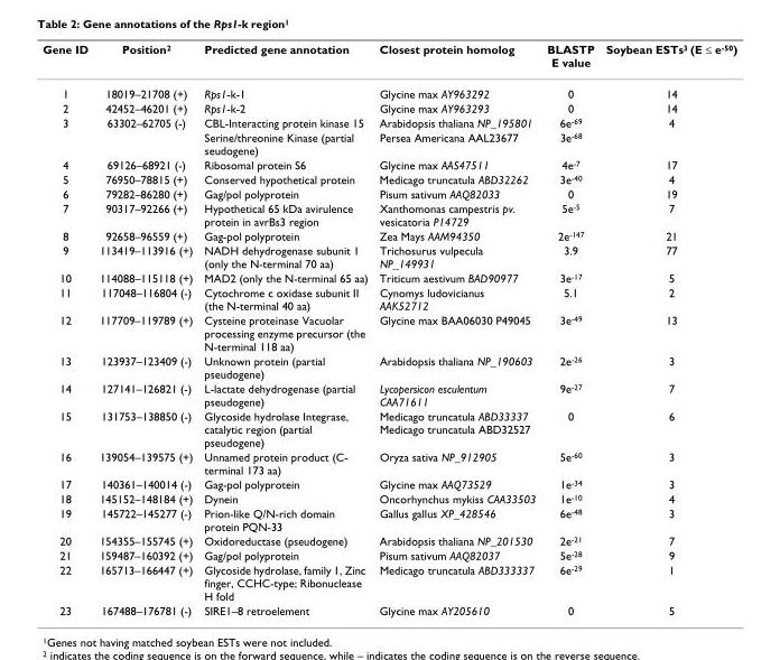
<table><thead><tr><td>Gene ID</td><td>Position<sup>2</sup></td><td>Predicted gene annotation</td><td>Closest protein homolog</td><td>BLASTP E value</td><td>Soybean ESTs<sup>3</sup> (E ≤ e<sup>-50</sup>)</td></tr></thead><tbody><tr><td>1</td><td>18019–21708 (+)</td><td>Rps1-k-1</td><td>Glycine max AY963292</td><td>0</td><td>14</td></tr><tr><td>2</td><td>42452–46201 (+)</td><td>Rps1-k-2</td><td>Glycine max AY963293</td><td>0</td><td>14</td></tr><tr><td rowspan="2">3</td><td>63302–62705 (-)</td><td>CBL-Interacting protein kinase 15</td><td>Arabidopsis thaliana NP_195801</td><td>6e<sup>-69</sup></td><td>4</td></tr><tr><td></td><td>Serine/threonine Kinase (partial seudogene)</td><td>Persea Americana AAL23677</td><td>3e<sup>-68</sup></td><td></td></tr><tr><td>4</td><td>69126–68921 (-)</td><td>Ribosomal protein S6</td><td>Glycine max AAS47511</td><td>4e<sup>-7</sup></td><td>17</td></tr><tr><td>5</td><td>76950–78815 (+)</td><td>Conserved hypothetical protein</td><td>Medicago truncatula ABD32262</td><td>3e<sup>-40</sup></td><td>4</td></tr><tr><td>6</td><td>79282–86280 (+)</td><td>Gag/pol polyprotein</td><td>Pisum sativum AAQ82033</td><td>0</td><td>19</td></tr><tr><td>7</td><td>90317–92266 (+)</td><td>Hypothetical 65 kDa avirulence protein in avrBs3 region</td><td>Xanthomonas campestris pv. vesicatoria P14729</td><td>5e<sup>-5</sup></td><td>7</td></tr><tr><td>8</td><td>92658–96559 (+)</td><td>Gag-pol polyprotein</td><td>Zea Mays AAM94350</td><td>2e<sup>-147</sup></td><td>21</td></tr><tr><td>9</td><td>113419–113916 (+)</td><td>NADH dehydrogenase subunit 1 (only the N-terminal 70 aa)</td><td>Trichosurus vulpecula NP_149931</td><td>3.9</td><td>77</td></tr><tr><td>10</td><td>114088–115118 (+)</td><td>MAD2 (only the N-terminal 65 aa)</td><td>Triticum aestivum BAD90977</td><td>3e<sup>-17</sup></td><td>5</td></tr><tr><td>11</td><td>117048–116804 (-)</td><td>Cytochrome c oxidase subunit II (the N-terminal 40 aa)</td><td>Cynomys ludovicianus AAK52712</td><td>5.1</td><td>2</td></tr><tr><td>12</td><td>117709–119789 (+)</td><td>Cysteine proteinase Vacuolar processing enzyme precursor (the N-terminal 118 aa)</td><td>Glycine max BAA06030 P49045</td><td>3e<sup>-49</sup></td><td>13</td></tr><tr><td>13</td><td>123937–123409 (-)</td><td>Unknown protein (partial pseudogene)</td><td>Arabidopsis thaliana NP_190603</td><td>2e<sup>-26</sup></td><td>3</td></tr><tr><td>14</td><td>127141–126821 (-)</td><td>L-lactate dehydrogenase (partial pseudogene)</td><td>Lycopersicon esculentum CAA71611</td><td>9e<sup>-27</sup></td><td>7</td></tr><tr><td>15</td><td>131753–138850 (-)</td><td>Glycoside hydrolase Integrase, catalytic region (partial pseudogene)</td><td>Medicago truncatula ABD33337 Medicago truncatula ABD32527</td><td>0</td><td>6</td></tr><tr><td>16</td><td>139054–139575 (+)</td><td>Unnamed protein product (C- terminal 173 aa)</td><td>Oryza sativa NP_912905</td><td>5e<sup>-60</sup></td><td>3</td></tr><tr><td>17</td><td>140361–140014 (-)</td><td>Gag-pol polyprotein</td><td>Glycine max AAQ73529</td><td>1e<sup>-34</sup></td><td>3</td></tr><tr><td>18</td><td>145152–148184 (+)</td><td>Dynein</td><td>Oncorhynchus mykiss CAA33503</td><td>1e<sup>-10</sup></td><td>4</td></tr><tr><td>19</td><td>145722–145277 (-)</td><td>Prion-like Q/N-rich domain protein PQN-33</td><td>Gallus gallus XP_428546</td><td>6e<sup>-48</sup></td><td>3</td></tr><tr><td>20</td><td>154355–155745 (+)</td><td>Oxidoreductase (pseudogene)</td><td>Arabidopsis thaliana NP_201530</td><td>2e<sup>-21</sup></td><td>7</td></tr><tr><td>21</td><td>159487–160392 (+)</td><td>Gag/pol polyprotein</td><td>Pisum sativum AAQ82037</td><td>5e<sup>-28</sup></td><td>9</td></tr><tr><td>22</td><td>165713–166447 (+)</td><td>Glycoside hydrolase, family 1, Zinc finger, CCHC-type; Ribonuclease H fold</td><td>Medicago truncatula ABD333337</td><td>6e<sup>-29</sup></td><td>1</td></tr><tr><td>23</td><td>167488–176781 (-)</td><td>SIRE1–8 retroelement</td><td>Glycine max AY205610</td><td>0</td><td>5</td></tr></tbody></table>